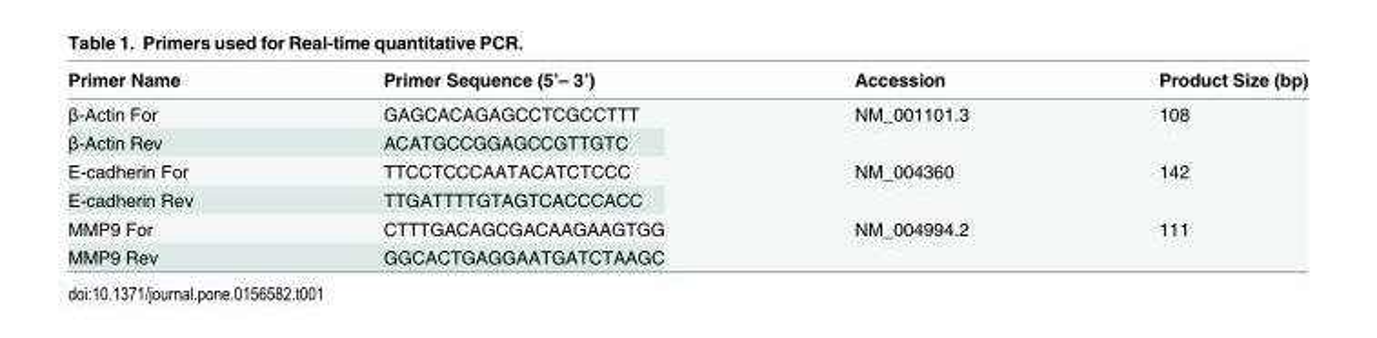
<table><thead><tr><td>Primer Name</td><td>Primer Sequence (5’– 3’)</td><td>Accession</td><td>Product Size (bp)</td></tr></thead><tbody><tr><td>β-Actin For</td><td>GAGCACAGAGCCTCGCCTTT</td><td rowspan="2">NM_001101.3</td><td rowspan="2">108</td></tr><tr><td>β-Actin Rev</td><td>ACATGCCGGAGCCGTTGTC</td></tr><tr><td>E-cadherin For</td><td>TTCCTCCCAATACATCTCCC</td><td rowspan="2">NM_004360</td><td rowspan="2">142</td></tr><tr><td>E-cadherin Rev</td><td>TTGATTTTGTAGTCACCCACC</td></tr><tr><td>MMP9 For</td><td>CTTTGACAGCGACAAGAAGTGG</td><td rowspan="2">NM_004994.2</td><td rowspan="2">111</td></tr><tr><td>MMP9 Rev</td><td>GGCACTGAGGAATGATCTAAGC</td></tr></tbody></table>